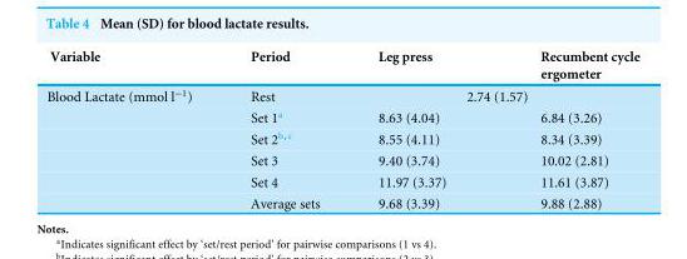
<table><thead><tr><td>Variable</td><td>Period</td><td>Leg press</td><td>Recumbent cycle ergometer</td></tr></thead><tbody><tr><td rowspan="6">Blood Lactate (mmol l<sup>−1</sup>)</td><td>Rest</td><td colspan="2">2.74 (1.57)</td></tr><tr><td>Set 1<sup>a</sup></td><td>8.63 (4.04)</td><td>6.84 (3.26)</td></tr><tr><td>Set 2<sup>b,c</sup></td><td>8.55 (4.11)</td><td>8.34 (3.39)</td></tr><tr><td>Set 3</td><td>9.40 (3.74)</td><td>10.02 (2.81)</td></tr><tr><td>Set 4</td><td>11.97 (3.37)</td><td>11.61 (3.87)</td></tr><tr><td>Average sets</td><td>9.68 (3.39)</td><td>9.88 (2.88)</td></tr></tbody></table>